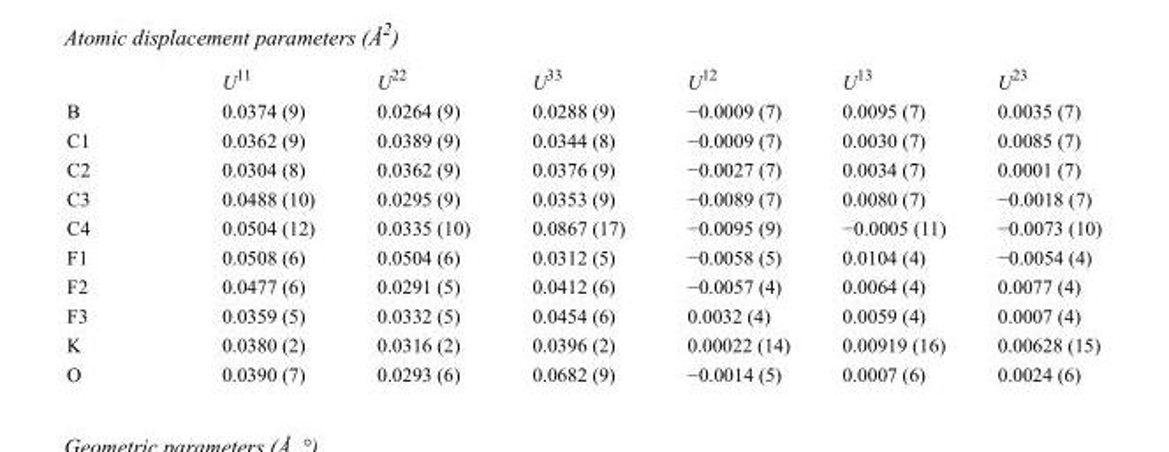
<table><thead><tr><td></td><td>U<sup>11</sup></td><td>U<sup>22</sup></td><td>U<sup>33</sup></td><td>U<sup>12</sup></td><td>U<sup>13</sup></td><td>U<sup>23</sup></td></tr></thead><tbody><tr><td>B</td><td>0.0374 (9)</td><td>0.0264 (9)</td><td>0.0288 (9)</td><td>−0.0009 (7)</td><td>0.0095 (7)</td><td>0.0035 (7)</td></tr><tr><td>C1</td><td>0.0362 (9)</td><td>0.0389 (9)</td><td>0.0344 (8)</td><td>−0.0009 (7)</td><td>0.0030 (7)</td><td>0.0085 (7)</td></tr><tr><td>C2</td><td>0.0304 (8)</td><td>0.0362 (9)</td><td>0.0376 (9)</td><td>−0.0027 (7)</td><td>0.0034 (7)</td><td>0.0001 (7)</td></tr><tr><td>C3</td><td>0.0488 (10)</td><td>0.0295 (9)</td><td>0.0353 (9)</td><td>−0.0089 (7)</td><td>0.0080 (7)</td><td>−0.0018 (7)</td></tr><tr><td>C4</td><td>0.0504 (12)</td><td>0.0335 (10)</td><td>0.0867 (17)</td><td>−0.0095 (9)</td><td>−0.0005 (11)</td><td>−0.0073 (10)</td></tr><tr><td>F1</td><td>0.0508 (6)</td><td>0.0504 (6)</td><td>0.0312 (5)</td><td>−0.0058 (5)</td><td>0.0104 (4)</td><td>−0.0054 (4)</td></tr><tr><td>F2</td><td>0.0477 (6)</td><td>0.0291 (5)</td><td>0.0412 (6)</td><td>−0.0057 (4)</td><td>0.0064 (4)</td><td>0.0077 (4)</td></tr><tr><td>F3</td><td>0.0359 (5)</td><td>0.0332 (5)</td><td>0.0454 (6)</td><td>0.0032 (4)</td><td>0.0059 (4)</td><td>0.0007 (4)</td></tr><tr><td>K</td><td>0.0380 (2)</td><td>0.0316 (2)</td><td>0.0396 (2)</td><td>0.00022 (14)</td><td>0.00919 (16)</td><td>0.00628 (15)</td></tr><tr><td>O</td><td>0.0390 (7)</td><td>0.0293 (6)</td><td>0.0682 (9)</td><td>−0.0014 (5)</td><td>0.0007 (6)</td><td>0.0024 (6)</td></tr></tbody></table>